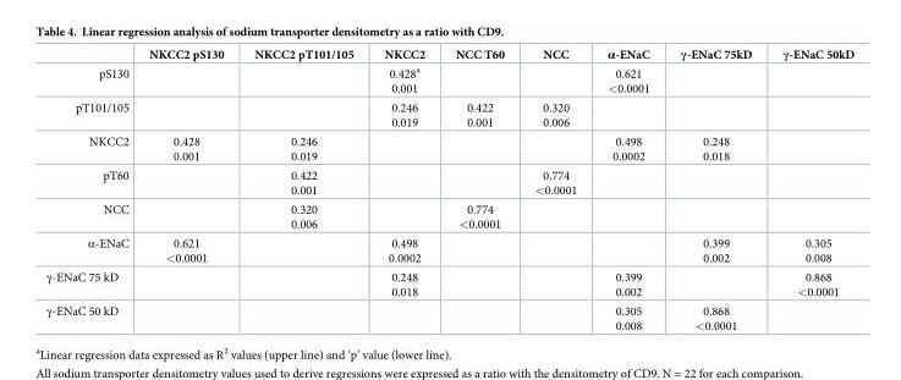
<table><thead><tr><td></td><td>NKCC2 pS130</td><td>NKCC2 pT101/105</td><td>NKCC2</td><td>NCC T60</td><td>NCC</td><td>α-ENaC</td><td>γ-ENaC 75kD</td><td>γ-ENaC 50kD</td></tr></thead><tbody><tr><td>pS130</td><td></td><td></td><td>0.428<sup>a</sup> 0.001</td><td></td><td></td><td>0.621 &lt;0.0001</td><td></td><td></td></tr><tr><td>pT101/105</td><td></td><td></td><td>0.246 0.019</td><td>0.422 0.001</td><td>0.320 0.006</td><td></td><td></td><td></td></tr><tr><td>NKCC2</td><td>0.428 0.001</td><td>0.246 0.019</td><td></td><td></td><td></td><td>0.498 0.0002</td><td>0.248 0.018</td><td></td></tr><tr><td>pT60</td><td></td><td>0.422 0.001</td><td></td><td></td><td>0.774 &lt;0.0001</td><td></td><td></td><td></td></tr><tr><td>NCC</td><td></td><td>0.320 0.006</td><td></td><td>0.774 &lt;0.0001</td><td></td><td></td><td></td><td></td></tr><tr><td>α-ENaC</td><td>0.621 &lt;0.0001</td><td></td><td>0.498 0.0002</td><td></td><td></td><td></td><td>0.399 0.002</td><td>0.305 0.008</td></tr><tr><td>γ-ENaC 75 kD</td><td></td><td></td><td>0.248 0.018</td><td></td><td></td><td>0.399 0.002</td><td></td><td>0.868 &lt;0.0001</td></tr><tr><td>γ-ENaC 50 kD</td><td></td><td></td><td></td><td></td><td></td><td>0.305 0.008</td><td>0.868 &lt;0.0001</td><td></td></tr></tbody></table>